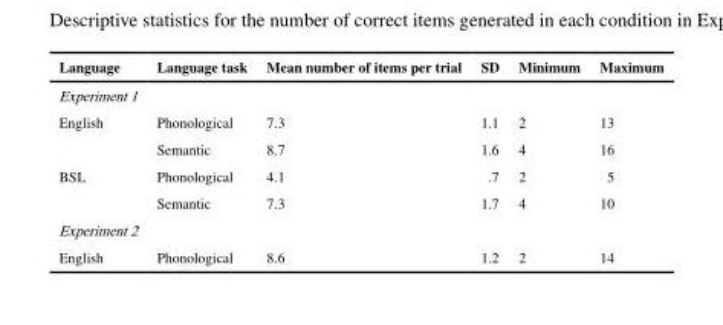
<table><thead><tr><td>Language</td><td>Language task</td><td>Mean number of items per trial</td><td>SD</td><td>Minimum</td><td>Maximum</td></tr></thead><tbody><tr><td colspan="6">Experiment 1</td></tr><tr><td rowspan="2">English</td><td>Phonological</td><td>7.3</td><td>1.1</td><td>2</td><td>13</td></tr><tr><td>Semantic</td><td>8.7</td><td>1.6</td><td>4</td><td>16</td></tr><tr><td rowspan="2">BSL</td><td>Phonological</td><td>4.1</td><td>.7</td><td>2</td><td>5</td></tr><tr><td>Semantic</td><td>7.3</td><td>1.7</td><td>4</td><td>10</td></tr><tr><td colspan="6">Experiment 2</td></tr><tr><td>English</td><td>Phonological</td><td>8.6</td><td>1.2</td><td>2</td><td>14</td></tr></tbody></table>